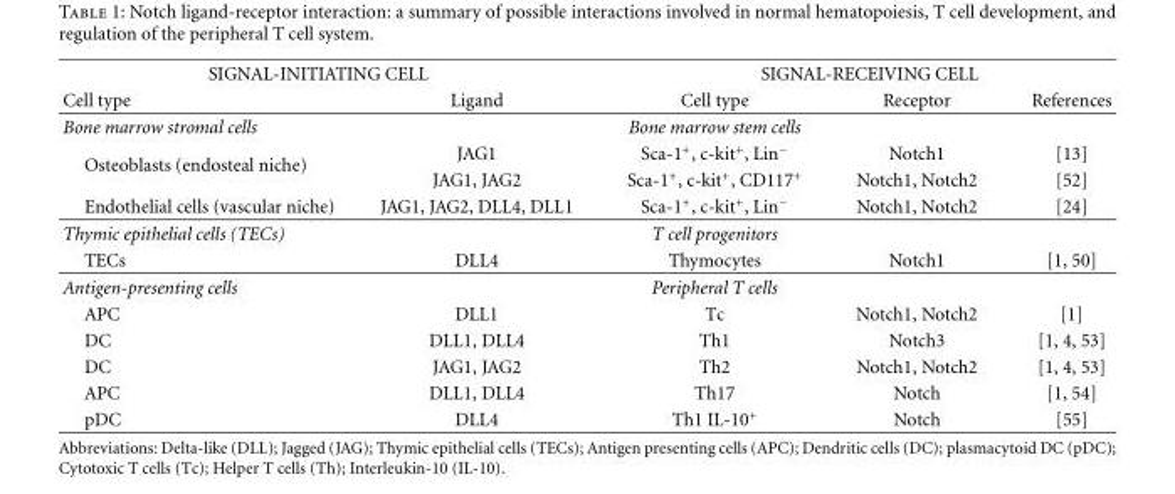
<table><thead><tr><td colspan="2">SIGNAL-INITIATING CELL</td><td colspan="3">SIGNAL-RECEIVING CELL</td></tr><tr><td>Cell type</td><td>Ligand</td><td>Cell type</td><td>Receptor</td><td>References</td></tr></thead><tbody><tr><td>Bone marrow stromal cells</td><td></td><td>Bone marrow stem cells</td><td></td><td></td></tr><tr><td rowspan="2">Osteoblasts (endosteal niche)</td><td>JAG1</td><td>Sca-1<sup>+</sup>, c-kit<sup>+</sup>, Lin<sup>−</sup></td><td>Notch1</td><td>[13]</td></tr><tr><td>JAG1, JAG2</td><td>Sca-1<sup>+</sup>, c-kit<sup>+</sup>, CD117<sup>+</sup></td><td>Notch1, Notch2</td><td>[52]</td></tr><tr><td>Endothelial cells (vascular niche)</td><td>JAG1, JAG2, DLL4, DLL1</td><td>Sca-1<sup>+</sup>, c-kit<sup>+</sup>, Lin<sup>−</sup></td><td>Notch1, Notch2</td><td>[24]</td></tr><tr><td>Thymic epithelial cells (TECs)</td><td></td><td>T cell progenitors</td><td></td><td></td></tr><tr><td>TECs</td><td>DLL4</td><td>Thymocytes</td><td>Notch1</td><td>[1, 50]</td></tr><tr><td>Antigen-presenting cells</td><td></td><td>Peripheral T cells</td><td></td><td></td></tr><tr><td>APC</td><td>DLL1</td><td>Tc</td><td>Notch1, Notch2</td><td>[1]</td></tr><tr><td>DC</td><td>DLL1, DLL4</td><td>Th1</td><td>Notch3</td><td>[1, 4, 53]</td></tr><tr><td>DC</td><td>JAG1, JAG2</td><td>Th2</td><td>Notch1, Notch2</td><td>[1, 4, 53]</td></tr><tr><td>APC</td><td>DLL1, DLL4</td><td>Th17</td><td>Notch</td><td>[1, 54]</td></tr><tr><td>pDC</td><td>DLL4</td><td>Th1 IL-10<sup>+</sup></td><td>Notch</td><td>[55]</td></tr></tbody></table>